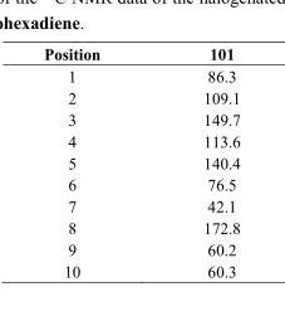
<table><thead><tr><td>Position</td><td>101</td></tr></thead><tbody><tr><td>1</td><td>86.3</td></tr><tr><td>2</td><td>109.1</td></tr><tr><td>3</td><td>149.7</td></tr><tr><td>4</td><td>113.6</td></tr><tr><td>5</td><td>140.4</td></tr><tr><td>6</td><td>76.5</td></tr><tr><td>7</td><td>42.1</td></tr><tr><td>8</td><td>172.8</td></tr><tr><td>9</td><td>60.2</td></tr><tr><td>10</td><td>60.3</td></tr></tbody></table>